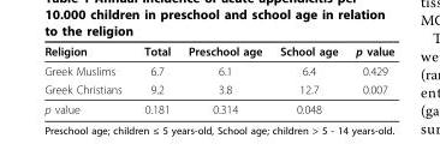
<table><thead><tr><td>Religion</td><td>Total</td><td>Preschool age</td><td>School age</td><td>p value</td></tr></thead><tbody><tr><td>Greek Muslims</td><td>6.7</td><td>6.1</td><td>6.4</td><td>0.429</td></tr><tr><td>Greek Christians</td><td>9.2</td><td>3.8</td><td>12.7</td><td>0.007</td></tr><tr><td>p value</td><td>0.181</td><td>0.314</td><td>0.048</td><td></td></tr></tbody></table>